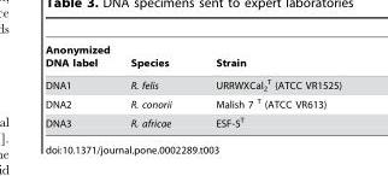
<table><thead><tr><td>Anonymized DNA label</td><td>Species</td><td>Strain</td></tr></thead><tbody><tr><td>DNA1</td><td>R. felis</td><td>URRWXCal<sub>2</sub> <sup>T</sup> (ATCC VR1525)</td></tr><tr><td>DNA2</td><td>R. conorii</td><td>Malish 7 <sup>T</sup> (ATCC VR613)</td></tr><tr><td>DNA3</td><td>R. africae</td><td>ESF-5<sup>T</sup></td></tr></tbody></table>